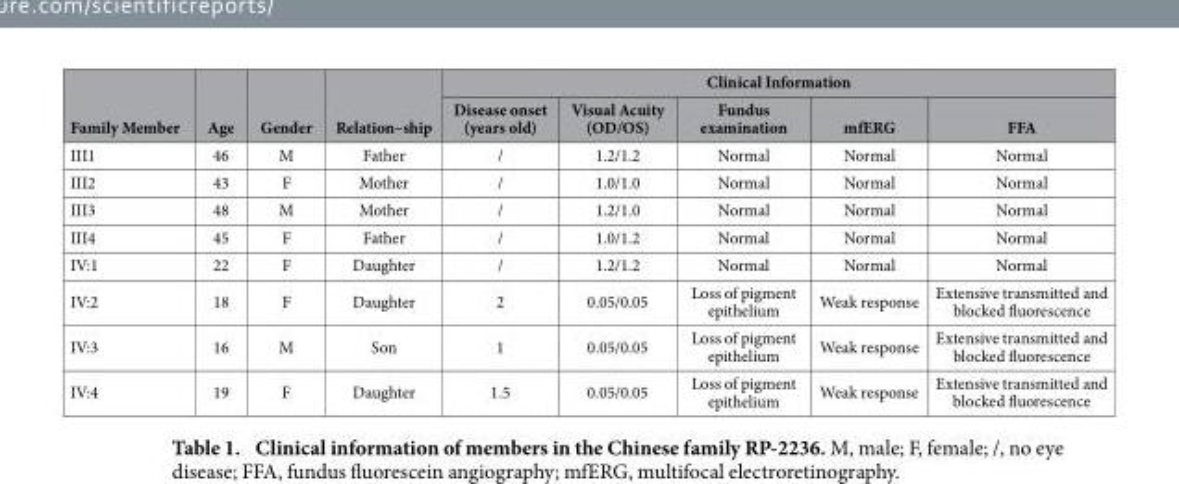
<table><thead><tr><td rowspan="2">Family Member</td><td rowspan="2">Age</td><td rowspan="2">Gender</td><td rowspan="2">Relation–ship</td><td colspan="5">Clinical Information</td></tr><tr><td>Disease onset (years old)</td><td>Visual Acuity (OD/OS)</td><td>Fundus examination</td><td>mfERG</td><td>FFA</td></tr></thead><tbody><tr><td>III1</td><td>46</td><td>M</td><td>Father</td><td>/</td><td>1.2/1.2</td><td>Normal</td><td>Normal</td><td>Normal</td></tr><tr><td>III2</td><td>43</td><td>F</td><td>Mother</td><td>/</td><td>1.0/1.0</td><td>Normal</td><td>Normal</td><td>Normal</td></tr><tr><td>III3</td><td>48</td><td>M</td><td>Mother</td><td>/</td><td>1.2/1.0</td><td>Normal</td><td>Normal</td><td>Normal</td></tr><tr><td>III4</td><td>45</td><td>F</td><td>Father</td><td>/</td><td>1.0/1.2</td><td>Normal</td><td>Normal</td><td>Normal</td></tr><tr><td>IV:1</td><td>22</td><td>F</td><td>Daughter</td><td>/</td><td>1.2/1.2</td><td>Normal</td><td>Normal</td><td>Normal</td></tr><tr><td>IV:2</td><td>18</td><td>F</td><td>Daughter</td><td>2</td><td>0.05/0.05</td><td>Loss of pigment epithelium</td><td>Weak response</td><td>Extensive transmitted and blocked fluorescence</td></tr><tr><td>IV:3</td><td>16</td><td>M</td><td>Son</td><td>1</td><td>0.05/0.05</td><td>Loss of pigment epithelium</td><td>Weak response</td><td>Extensive transmitted and blocked fluorescence</td></tr><tr><td>IV:4</td><td>19</td><td>F</td><td>Daughter</td><td>1.5</td><td>0.05/0.05</td><td>Loss of pigment epithelium</td><td>Weak response</td><td>Extensive transmitted and blocked fluorescence</td></tr></tbody></table>